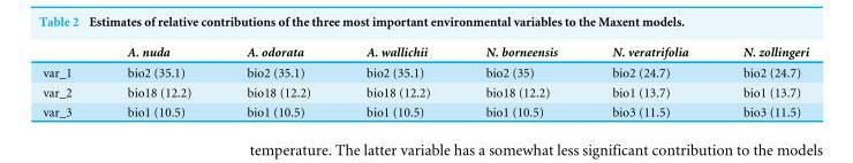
<table><thead><tr><td></td><td>A. nuda</td><td>A. odorata</td><td>A. wallichii</td><td>N. borneensis</td><td>N. veratrifolia</td><td>N. zollingeri</td></tr></thead><tbody><tr><td>var_1</td><td>bio2 (35.1)</td><td>bio2 (35.1)</td><td>bio2 (35.1)</td><td>bio2 (35)</td><td>bio2 (24.7)</td><td>bio2 (24.7)</td></tr><tr><td>var_2</td><td>bio18 (12.2)</td><td>bio18 (12.2)</td><td>bio18 (12.2)</td><td>bio18 (12.2)</td><td>bio1 (13.7)</td><td>bio1 (13.7)</td></tr><tr><td>var_3</td><td>bio1 (10.5)</td><td>bio1 (10.5)</td><td>bio1 (10.5)</td><td>bio1 (10.5)</td><td>bio3 (11.5)</td><td>bio3 (11.5)</td></tr></tbody></table>